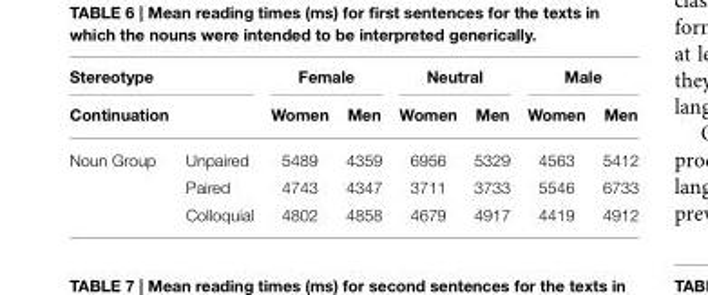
<table><thead><tr><td rowspan="2" colspan="2">Stereotype Continuation</td><td colspan="2">Female</td><td colspan="2">Neutral</td><td colspan="2">Male</td></tr><tr><td rowspan="2">Women 5489</td><td rowspan="2">Men 4359</td><td rowspan="2">Women 6956</td><td rowspan="2">Men 5329</td><td rowspan="2">Women 4563</td><td rowspan="2">Men 5412</td></tr><tr><td>Noun Group</td><td>Unpaired</td></tr></thead><tbody><tr><td></td><td>Paired</td><td>4743</td><td>4347</td><td>3711</td><td>3733</td><td>5546</td><td>6733</td></tr><tr><td></td><td>Colloquial</td><td>4802</td><td>4858</td><td>4679</td><td>4917</td><td>4419</td><td>4912</td></tr></tbody></table>